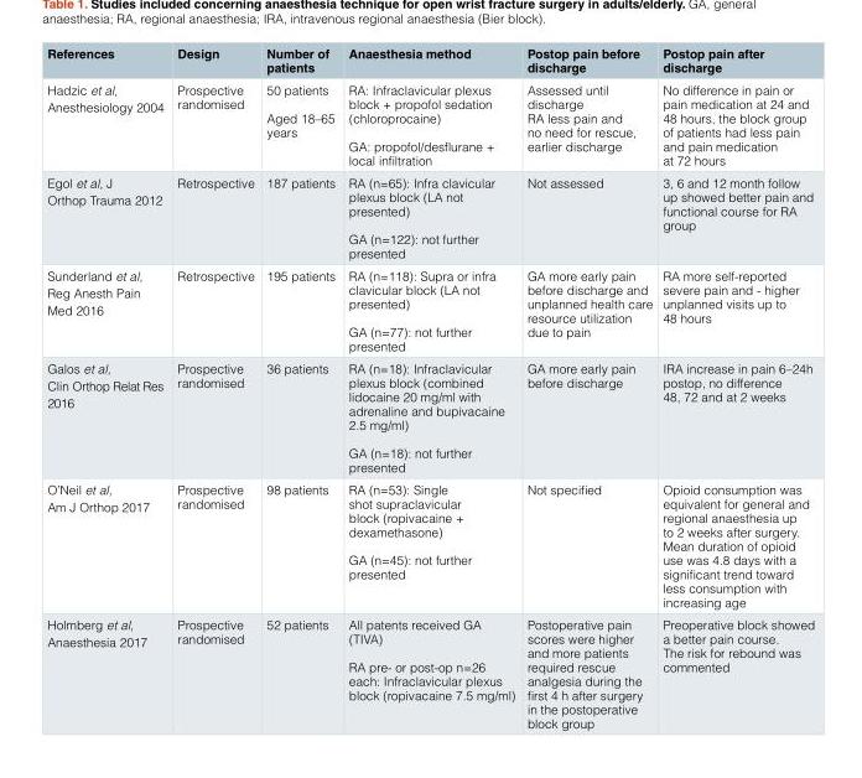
<table><thead><tr><td>References</td><td>Design</td><td>Number of patients</td><td>Anaesthesia method</td><td>Postop pain before discharge</td><td>Postop pain after discharge</td></tr></thead><tbody><tr><td>Hadzic et al, Anesthesiology 2004</td><td>Prospective randomised</td><td>50 patients Aged 18–65 years</td><td>RA: Infraclavicular plexus block + propofol sedation (chloroprocaine) GA: propofol/desflurane + local infiltration</td><td>Assessed until discharge RA less pain and no need for rescue, earlier discharge</td><td>No difference in pain or pain medication at 24 and 48 hours, the block group of patients had less pain and pain medication at 72 hours</td></tr><tr><td>Egol et al, J Orthop Trauma 2012</td><td>Retrospective</td><td>187 patients</td><td>RA (n=65): Infra clavicular plexus block (LA not presented) GA (n=122): not further presented</td><td>Not assessed</td><td>3, 6 and 12 month follow up showed better pain and functional course for RA group</td></tr><tr><td>Sunderland et al, Reg Anesth Pain Med 2016</td><td>Retrospective</td><td>195 patients</td><td>RA (n=118): Supra or infra clavicular block (LA not presented) GA (n=77): not further presented</td><td>GA more early pain before discharge and unplanned health care resource utilization due to pain</td><td>RA more self-reported severe pain and - higher unplanned visits up to 48 hours</td></tr><tr><td>Galos et al, Clin Orthop Relat Res 2016</td><td>Prospective randomised</td><td>36 patients</td><td>RA (n=18): Infraclavicular plexus block (combined lidocaine 20 mg/ml with adrenaline and bupivacaine 2.5 mg/ml) GA (n=18): not further presented</td><td>GA more early pain before discharge</td><td>IRA increase in pain 6–24h postop, no difference 48, 72 and at 2 weeks</td></tr><tr><td>O’Neil et al, Am J Orthop 2017</td><td>Prospective randomised</td><td>98 patients</td><td>RA (n=53): Single shot supraclavicular block (ropivacaine + dexamethasone) GA (n=45): not further presented</td><td>Not specified</td><td>Opioid consumption was equivalent for general and regional anaesthesia up to 2 weeks after surgery. Mean duration of opioid use was 4.8 days with a significant trend toward less consumption with increasing age</td></tr><tr><td>Holmberg et al, Anaesthesia 2017</td><td>Prospective randomised</td><td>52 patients</td><td>All patents received GA (TIVA) RA pre- or post-op n=26 each: Infraclavicular plexus block (ropivacaine 7.5 mg/ml)</td><td>Postoperative pain scores were higher and more patients required rescue analgesia during the first 4 h after surgery in the postoperative block group</td><td>Preoperative block showed a better pain course. The risk for rebound was commented</td></tr></tbody></table>